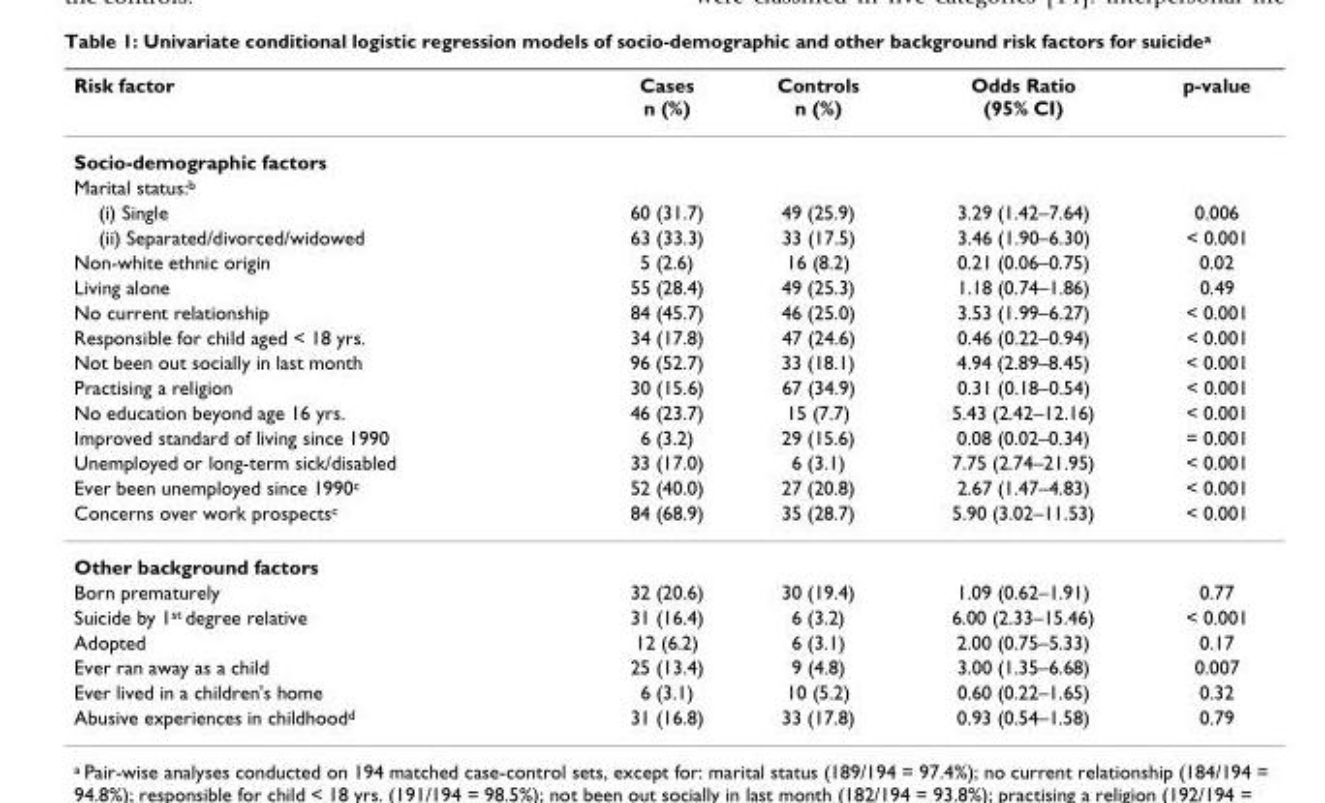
<table><thead><tr><td>Risk factor</td><td>Cases n (%)</td><td>Controls n (%)</td><td>Odds Ratio (95% CI)</td><td>p-value</td></tr></thead><tbody><tr><td colspan="5">Socio-demographic factors</td></tr><tr><td colspan="5">Marital status:<sup>b</sup></td></tr><tr><td>(i) Single</td><td>60 (31.7)</td><td>49 (25.9)</td><td>3.29 (1.42–7.64)</td><td>0.006</td></tr><tr><td>(ii) Separated/divorced/widowed</td><td>63 (33.3)</td><td>33 (17.5)</td><td>3.46 (1.90–6.30)</td><td>&lt; 0.001</td></tr><tr><td>Non-white ethnic origin</td><td>5 (2.6)</td><td>16 (8.2)</td><td>0.21 (0.06–0.75)</td><td>0.02</td></tr><tr><td>Living alone</td><td>55 (28.4)</td><td>49 (25.3)</td><td>1.18 (0.74–1.86)</td><td>0.49</td></tr><tr><td>No current relationship</td><td>84 (45.7)</td><td>46 (25.0)</td><td>3.53 (1.99–6.27)</td><td>&lt; 0.001</td></tr><tr><td>Responsible for child aged &lt; 18 yrs.</td><td>34 (17.8)</td><td>47 (24.6)</td><td>0.46 (0.22–0.94)</td><td>&lt; 0.001</td></tr><tr><td>Not been out socially in last month</td><td>96 (52.7)</td><td>33 (18.1)</td><td>4.94 (2.89–8.45)</td><td>&lt; 0.001</td></tr><tr><td>Practising a religion</td><td>30 (15.6)</td><td>67 (34.9)</td><td>0.31 (0.18–0.54)</td><td>&lt; 0.001</td></tr><tr><td>No education beyond age 16 yrs.</td><td>46 (23.7)</td><td>15 (7.7)</td><td>5.43 (2.42–12.16)</td><td>&lt; 0.001</td></tr><tr><td>Improved standard of living since 1990</td><td>6 (3.2)</td><td>29 (15.6)</td><td>0.08 (0.02–0.34)</td><td>= 0.001</td></tr><tr><td>Unemployed or long-term sick/disabled</td><td>33 (17.0)</td><td>6 (3.1)</td><td>7.75 (2.74–21.95)</td><td>&lt; 0.001</td></tr><tr><td>Ever been unemployed since 1990<sup>c</sup></td><td>52 (40.0)</td><td>27 (20.8)</td><td>2.67 (1.47–4.83)</td><td>&lt; 0.001</td></tr><tr><td>Concerns over work prospects<sup>c</sup></td><td>84 (68.9)</td><td>35 (28.7)</td><td>5.90 (3.02–11.53)</td><td>&lt; 0.001</td></tr><tr><td colspan="5">Other background factors</td></tr><tr><td>Born prematurely</td><td>32 (20.6)</td><td>30 (19.4)</td><td>1.09 (0.62–1.91)</td><td>0.77</td></tr><tr><td>Suicide by 1<sup>st</sup> degree relative</td><td>31 (16.4)</td><td>6 (3.2)</td><td>6.00 (2.33–15.46)</td><td>&lt; 0.001</td></tr><tr><td>Adopted</td><td>12 (6.2)</td><td>6 (3.1)</td><td>2.00 (0.75–5.33)</td><td>0.17</td></tr><tr><td>Ever ran away as a child</td><td>25 (13.4)</td><td>9 (4.8)</td><td>3.00 (1.35–6.68)</td><td>0.007</td></tr><tr><td>Ever lived in a children&#x27;s home</td><td>6 (3.1)</td><td>10 (5.2)</td><td>0.60 (0.22–1.65)</td><td>0.32</td></tr><tr><td>Abusive experiences in childhood<sup>d</sup></td><td>31 (16.8)</td><td>33 (17.8)</td><td>0.93 (0.54–1.58)</td><td>0.79</td></tr></tbody></table>